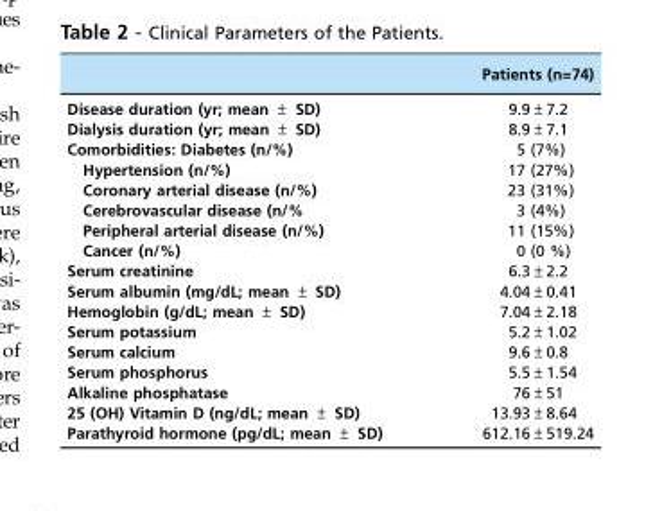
<table><thead><tr><td></td><td>Patients (n=74)</td></tr></thead><tbody><tr><td>Disease duration (yr; mean ± SD)</td><td>9.9±7.2</td></tr><tr><td>Dialysis duration (yr; mean ± SD)</td><td>8.9±7.1</td></tr><tr><td>Comorbidities: Diabetes (n/%)</td><td>5 (7%)</td></tr><tr><td>Hypertension (n/%)</td><td>17 (27%)</td></tr><tr><td>Coronary arterial disease (n/%)</td><td>23 (31%)</td></tr><tr><td>Cerebrovascular disease (n/%</td><td>3 (4%)</td></tr><tr><td>Peripheral arterial disease (n/%)</td><td>11 (15%)</td></tr><tr><td>Cancer (n/%)</td><td>0 (0 %)</td></tr><tr><td>Serum creatinine</td><td>6.3±2.2</td></tr><tr><td>Serum albumin (mg/dL; mean ± SD)</td><td>4.04±0.41</td></tr><tr><td>Hemoglobin (g/dL; mean ± SD)</td><td>7.04±2.18</td></tr><tr><td>Serum potassium</td><td>5.2±1.02</td></tr><tr><td>Serum calcium</td><td>9.6±0.8</td></tr><tr><td>Serum phosphorus</td><td>5.5±1.54</td></tr><tr><td>Alkaline phosphatase</td><td>76±51</td></tr><tr><td>25 (OH) Vitamin D (ng/dL; mean ± SD)</td><td>13.93±8.64</td></tr><tr><td>Parathyroid hormone (pg/dL; mean ± SD)</td><td>612.16±519.24</td></tr></tbody></table>